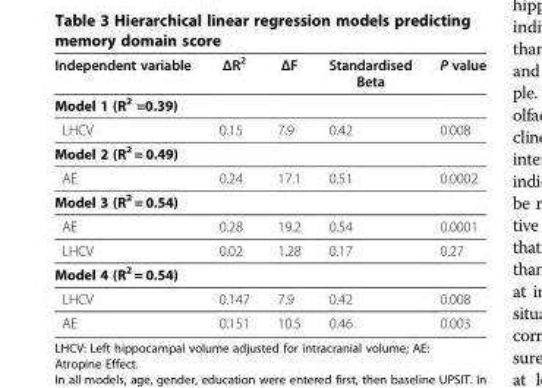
<table><thead><tr><td>Independent variable</td><td>ΔR<sup>2</sup></td><td>ΔF</td><td>Standardised Beta</td><td>P value</td></tr></thead><tbody><tr><td colspan="5">Model 1 (R<sup>2</sup> =0.39)</td></tr><tr><td>LHCV</td><td>0.15</td><td>7.9</td><td>0.42</td><td>0.008</td></tr><tr><td colspan="5">Model 2 (R<sup>2</sup> = 0.49)</td></tr><tr><td>AE</td><td>0.24</td><td>17.1</td><td>0.51</td><td>0.0002</td></tr><tr><td colspan="5">Model 3 (R<sup>2</sup> = 0.54)</td></tr><tr><td>AE</td><td>0.28</td><td>19.2</td><td>0.54</td><td>0.0001</td></tr><tr><td>LHCV</td><td>0.02</td><td>1.28</td><td>0.17</td><td>0.27</td></tr><tr><td colspan="5">Model 4 (R<sup>2</sup> = 0.54)</td></tr><tr><td>LHCV</td><td>0.147</td><td>7.9</td><td>0.42</td><td>0.008</td></tr><tr><td>AE</td><td>0.151</td><td>10.5</td><td>0.46</td><td>0.003</td></tr></tbody></table>